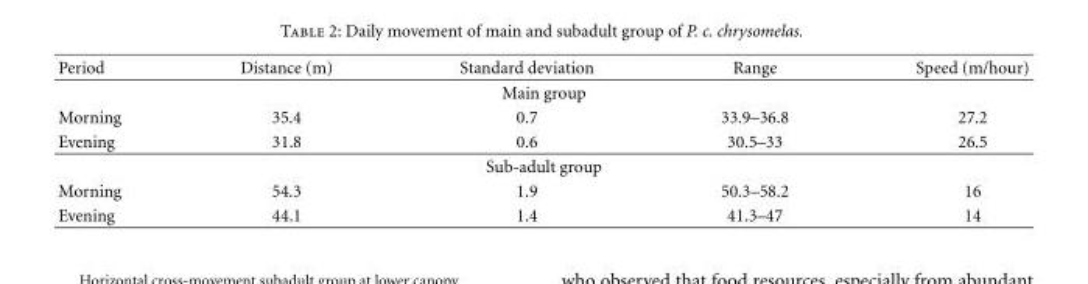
<table><thead><tr><td>Period</td><td>Distance (m)</td><td>Standard deviation</td><td>Range</td><td>Speed (m/hour)</td></tr></thead><tbody><tr><td colspan="5">Main group</td></tr><tr><td>Morning</td><td>35.4</td><td>0.7</td><td>33.9–36.8</td><td>27.2</td></tr><tr><td>Evening</td><td>31.8</td><td>0.6</td><td>30.5–33</td><td>26.5</td></tr><tr><td colspan="5">Sub-adult group</td></tr><tr><td>Morning</td><td>54.3</td><td>1.9</td><td>50.3–58.2</td><td>16</td></tr><tr><td>Evening</td><td>44.1</td><td>1.4</td><td>41.3–47</td><td>14</td></tr></tbody></table>